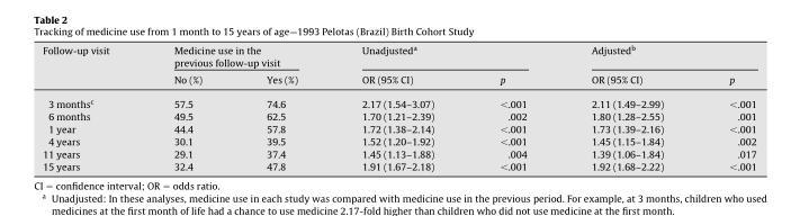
<table><thead><tr><td rowspan="2">Follow-up visit</td><td colspan="2">Medicine use in the previous follow-up visit</td><td colspan="2">Unadjusted<sup>a</sup></td><td colspan="2">Adjusted<sup>b</sup></td></tr><tr><td>No (%)</td><td>Yes (%)</td><td>OR (95% CI)</td><td>p</td><td>OR (95% CI)</td><td>p</td></tr></thead><tbody><tr><td>3 months<sup>c</sup></td><td>57.5</td><td>74.6</td><td>2.17 (1.54–3.07)</td><td>&lt;.001</td><td>2.11 (1.49–2.99)</td><td>&lt;.001</td></tr><tr><td>6 months</td><td>49.5</td><td>62.5</td><td>1.70 (1.21–2.39)</td><td>.002</td><td>1.80 (1.28–2.55)</td><td>.001</td></tr><tr><td>1 year</td><td>44.4</td><td>57.8</td><td>1.72 (1.38–2.14)</td><td>&lt;.001</td><td>1.73 (1.39–2.16)</td><td>&lt;.001</td></tr><tr><td>4 years</td><td>30.1</td><td>39.5</td><td>1.52 (1.20–1.92)</td><td>&lt;.001</td><td>1.45 (1.15–1.84)</td><td>.002</td></tr><tr><td>11 years</td><td>29.1</td><td>37.4</td><td>1.45 (1.13–1.88)</td><td>.004</td><td>1.39 (1.06–1.84)</td><td>.017</td></tr><tr><td>15 years</td><td>32.4</td><td>47.8</td><td>1.91 (1.67–2.18)</td><td>&lt;.001</td><td>1.92 (1.68–2.22)</td><td>&lt;.001</td></tr></tbody></table>